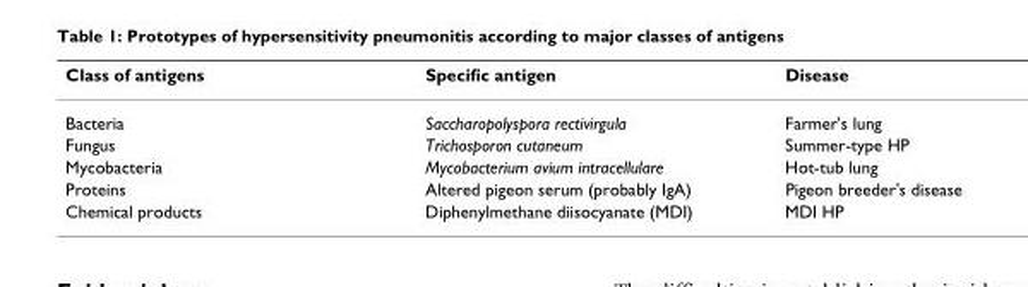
<table><thead><tr><td>Class of antigens</td><td>Specific antigen</td><td>Disease</td></tr></thead><tbody><tr><td>Bacteria</td><td>Saccharopolyspora rectivirgula</td><td>Farmer&#x27;s lung</td></tr><tr><td>Fungus</td><td>Trichosporon cutaneum</td><td>Summer-type HP</td></tr><tr><td>Mycobacteria</td><td>Mycobacterium avium intracellulare</td><td>Hot-tub lung</td></tr><tr><td>Proteins</td><td>Altered pigeon serum (probably IgA)</td><td>Pigeon breeder&#x27;s disease</td></tr><tr><td>Chemical products</td><td>Diphenylmethane diisocyanate (MDI)</td><td>MDI HP</td></tr></tbody></table>